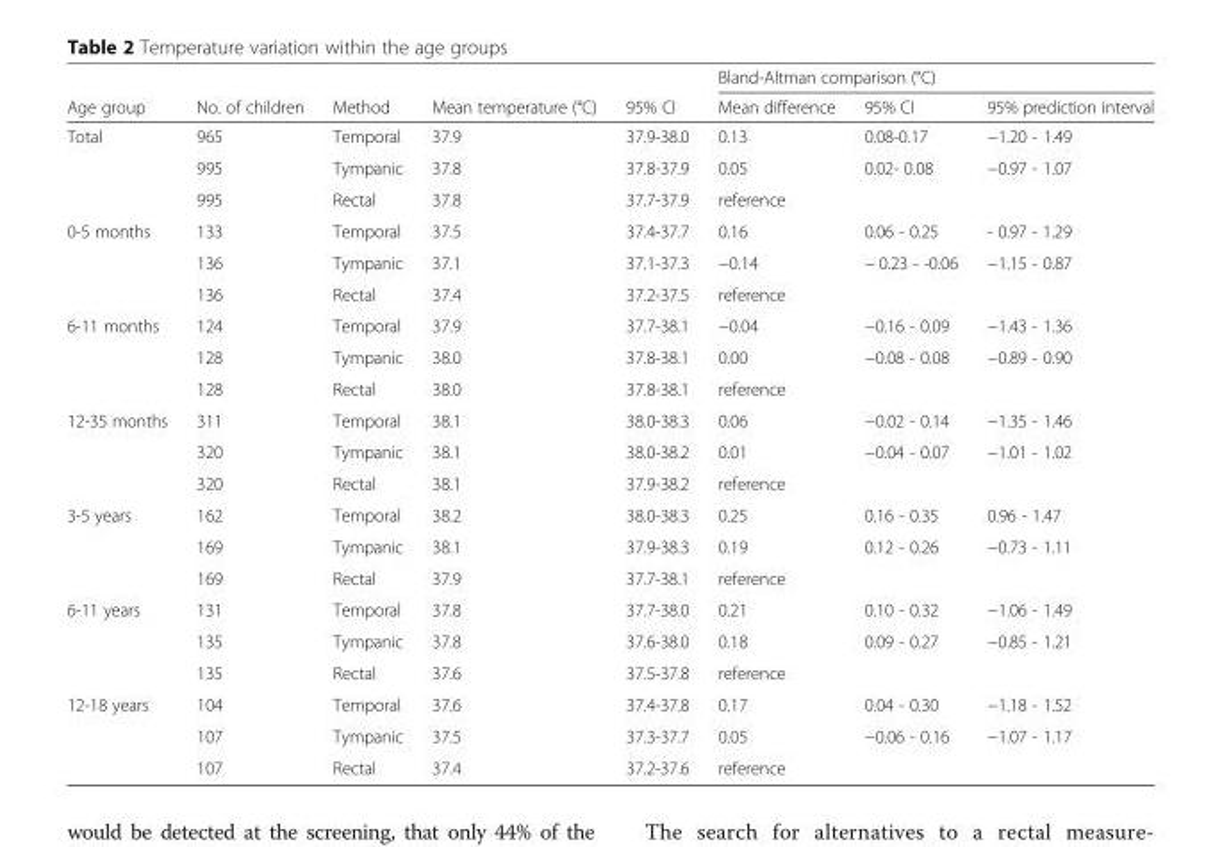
<table><thead><tr><td rowspan="2">Age group</td><td rowspan="2">No. of children</td><td rowspan="2">Method</td><td rowspan="2">Mean temperature (°C)</td><td rowspan="2">95% CI</td><td colspan="3">Bland-Altman comparison (°C)</td></tr><tr><td>Mean difference</td><td>95% CI</td><td>95% prediction interval</td></tr></thead><tbody><tr><td rowspan="3">Total</td><td>965</td><td>Temporal</td><td>37.9</td><td>37.9-38.0</td><td>0.13</td><td>0.08-0.17</td><td>−1.20 - 1.49</td></tr><tr><td>995</td><td>Tympanic</td><td>37.8</td><td>37.8-37.9</td><td>0.05</td><td>0.02- 0.08</td><td>−0.97 - 1.07</td></tr><tr><td>995</td><td>Rectal</td><td>37.8</td><td>37.7-37.9</td><td>reference</td><td></td><td></td></tr><tr><td rowspan="3">0-5 months</td><td>133</td><td>Temporal</td><td>37.5</td><td>37.4-37.7</td><td>0.16</td><td>0.06 - 0.25</td><td>- 0.97 - 1.29</td></tr><tr><td>136</td><td>Tympanic</td><td>37.1</td><td>37.1-37.3</td><td>−0.14</td><td>− 0.23 - -0.06</td><td>−1.15 - 0.87</td></tr><tr><td>136</td><td>Rectal</td><td>37.4</td><td>37.2-37.5</td><td>reference</td><td></td><td></td></tr><tr><td rowspan="3">6-11 months</td><td>124</td><td>Temporal</td><td>37.9</td><td>37.7-38.1</td><td>−0.04</td><td>−0.16 - 0.09</td><td>−1.43 - 1.36</td></tr><tr><td>128</td><td>Tympanic</td><td>38.0</td><td>37.8-38.1</td><td>0.00</td><td>−0.08 - 0.08</td><td>−0.89 - 0.90</td></tr><tr><td>128</td><td>Rectal</td><td>38.0</td><td>37.8-38.1</td><td>reference</td><td></td><td></td></tr><tr><td rowspan="3">12-35 months</td><td>311</td><td>Temporal</td><td>38.1</td><td>38.0-38.3</td><td>0.06</td><td>−0.02 - 0.14</td><td>−1.35 - 1.46</td></tr><tr><td>320</td><td>Tympanic</td><td>38.1</td><td>38.0-38.2</td><td>0.01</td><td>−0.04 - 0.07</td><td>−1.01 - 1.02</td></tr><tr><td>320</td><td>Rectal</td><td>38.1</td><td>37.9-38.2</td><td>reference</td><td></td><td></td></tr><tr><td rowspan="3">3-5 years</td><td>162</td><td>Temporal</td><td>38.2</td><td>38.0-38.3</td><td>0.25</td><td>0.16 - 0.35</td><td>0.96 - 1.47</td></tr><tr><td>169</td><td>Tympanic</td><td>38.1</td><td>37.9-38.3</td><td>0.19</td><td>0.12 - 0.26</td><td>−0.73 - 1.11</td></tr><tr><td>169</td><td>Rectal</td><td>37.9</td><td>37.7-38.1</td><td>reference</td><td></td><td></td></tr><tr><td rowspan="3">6-11 years</td><td>131</td><td>Temporal</td><td>37.8</td><td>37.7-38.0</td><td>0.21</td><td>0.10 - 0.32</td><td>−1.06 - 1.49</td></tr><tr><td>135</td><td>Tympanic</td><td>37.8</td><td>37.6-38.0</td><td>0.18</td><td>0.09 - 0.27</td><td>−0.85 - 1.21</td></tr><tr><td>135</td><td>Rectal</td><td>37.6</td><td>37.5-37.8</td><td>reference</td><td></td><td></td></tr><tr><td rowspan="3">12-18 years</td><td>104</td><td>Temporal</td><td>37.6</td><td>37.4-37.8</td><td>0.17</td><td>0.04 - 0.30</td><td>−1.18 - 1.52</td></tr><tr><td>107</td><td>Tympanic</td><td>37.5</td><td>37.3-37.7</td><td>0.05</td><td>−0.06 - 0.16</td><td>−1.07 - 1.17</td></tr><tr><td>107</td><td>Rectal</td><td>37.4</td><td>37.2-37.6</td><td>reference</td><td></td><td></td></tr></tbody></table>